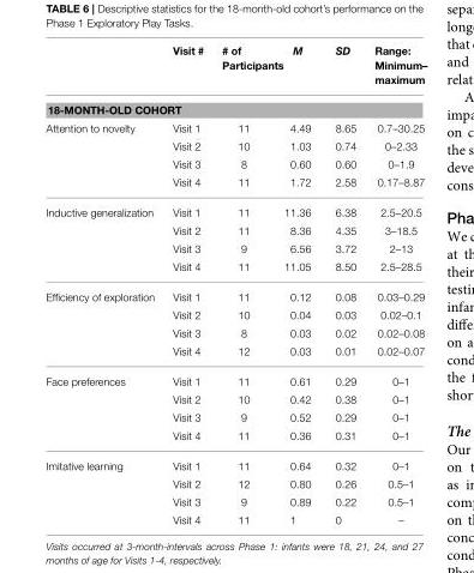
<table><thead><tr><td></td><td>Visit #</td><td># of Participants</td><td>M</td><td>SD</td><td>Range: Minimum– maximum</td></tr></thead><tbody><tr><td colspan="6">18-MONTH-OLD COHORT</td></tr><tr><td rowspan="4">Attention to novelty</td><td>Visit 1</td><td>11</td><td>4.49</td><td>8.65</td><td>0.7–30.25</td></tr><tr><td>Visit 2</td><td>10</td><td>1.03</td><td>0.74</td><td>0–2.33</td></tr><tr><td>Visit 3</td><td>8</td><td>0.60</td><td>0.60</td><td>0–1.9</td></tr><tr><td>Visit 4</td><td>11</td><td>1.72</td><td>2.58</td><td>0.17–8.87</td></tr><tr><td rowspan="4">Inductive generalization</td><td>Visit 1</td><td>11</td><td>11.36</td><td>6.38</td><td>2.5–20.5</td></tr><tr><td>Visit 2</td><td>11</td><td>8.36</td><td>4.35</td><td>3–18.5</td></tr><tr><td>Visit 3</td><td>9</td><td>6.56</td><td>3.72</td><td>2–13</td></tr><tr><td>Visit 4</td><td>11</td><td>11.05</td><td>8.50</td><td>2.5–28.5</td></tr><tr><td rowspan="4">Efficiency of exploration</td><td>Visit 1</td><td>11</td><td>0.12</td><td>0.08</td><td>0.03–0.29</td></tr><tr><td>Visit 2</td><td>10</td><td>0.04</td><td>0.03</td><td>0.02–0.1</td></tr><tr><td>Visit 3</td><td>8</td><td>0.03</td><td>0.02</td><td>0.02–0.08</td></tr><tr><td>Visit 4</td><td>12</td><td>0.03</td><td>0.01</td><td>0.02–0.07</td></tr><tr><td rowspan="4">Face preferences</td><td>Visit 1</td><td>11</td><td>0.61</td><td>0.29</td><td>0–1</td></tr><tr><td>Visit 2</td><td>10</td><td>0.42</td><td>0.38</td><td>0–1</td></tr><tr><td>Visit 3</td><td>9</td><td>0.52</td><td>0.29</td><td>0–1</td></tr><tr><td>Visit 4</td><td>11</td><td>0.36</td><td>0.31</td><td>0–1</td></tr><tr><td rowspan="4">Imitative learning</td><td>Visit 1</td><td>11</td><td>0.64</td><td>0.32</td><td>0–1</td></tr><tr><td>Visit 2</td><td>12</td><td>0.80</td><td>0.26</td><td>0.5–1</td></tr><tr><td>Visit 3</td><td>9</td><td>0.89</td><td>0.22</td><td>0.5–1</td></tr><tr><td>Visit 4</td><td>11</td><td>1</td><td>0</td><td>–</td></tr></tbody></table>